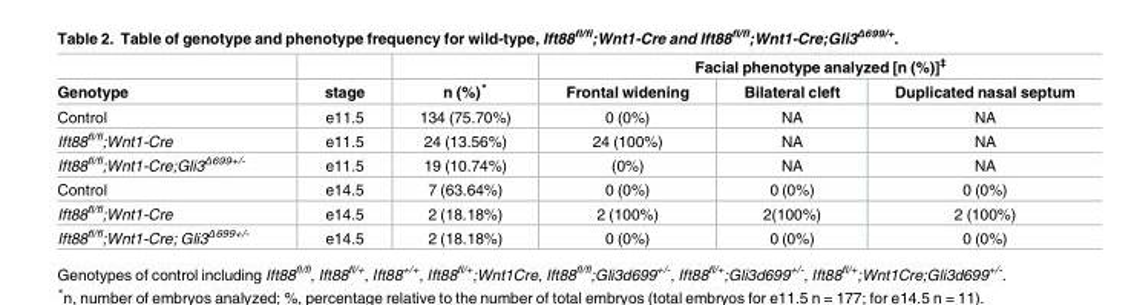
<table><thead><tr><td rowspan="2">Genotype</td><td rowspan="2">stage</td><td rowspan="2">n (%)*</td><td colspan="3">Facial phenotype analyzed [n (%)]<sup>‡</sup></td></tr><tr><td>Frontal widening</td><td>Bilateral cleft</td><td>Duplicated nasal septum</td></tr></thead><tbody><tr><td>Control</td><td>e11.5</td><td>134 (75.70%)</td><td>0 (0%)</td><td>NA</td><td>NA</td></tr><tr><td>Ift88<sup>fl/fl</sup>;Wnt1-Cre</td><td>e11.5</td><td>24 (13.56%)</td><td>24 (100%)</td><td>NA</td><td>NA</td></tr><tr><td>Ift88<sup>fl/fl</sup>;Wnt1-Cre;Gli3<sup>Δ699+/-</sup></td><td>e11.5</td><td>19 (10.74%)</td><td>(0%)</td><td>NA</td><td>NA</td></tr><tr><td>Control</td><td>e14.5</td><td>7 (63.64%)</td><td>0 (0%)</td><td>0 (0%)</td><td>0 (0%)</td></tr><tr><td>Ift88<sup>fl/fl</sup>;Wnt1-Cre</td><td>e14.5</td><td>2 (18.18%)</td><td>2 (100%)</td><td>2(100%)</td><td>2 (100%)</td></tr><tr><td>Ift88<sup>fl/fl</sup>;Wnt1-Cre; Gli3<sup>Δ699+/-</sup></td><td>e14.5</td><td>2 (18.18%)</td><td>0 (0%)</td><td>0 (0%)</td><td>0 (0%)</td></tr></tbody></table>